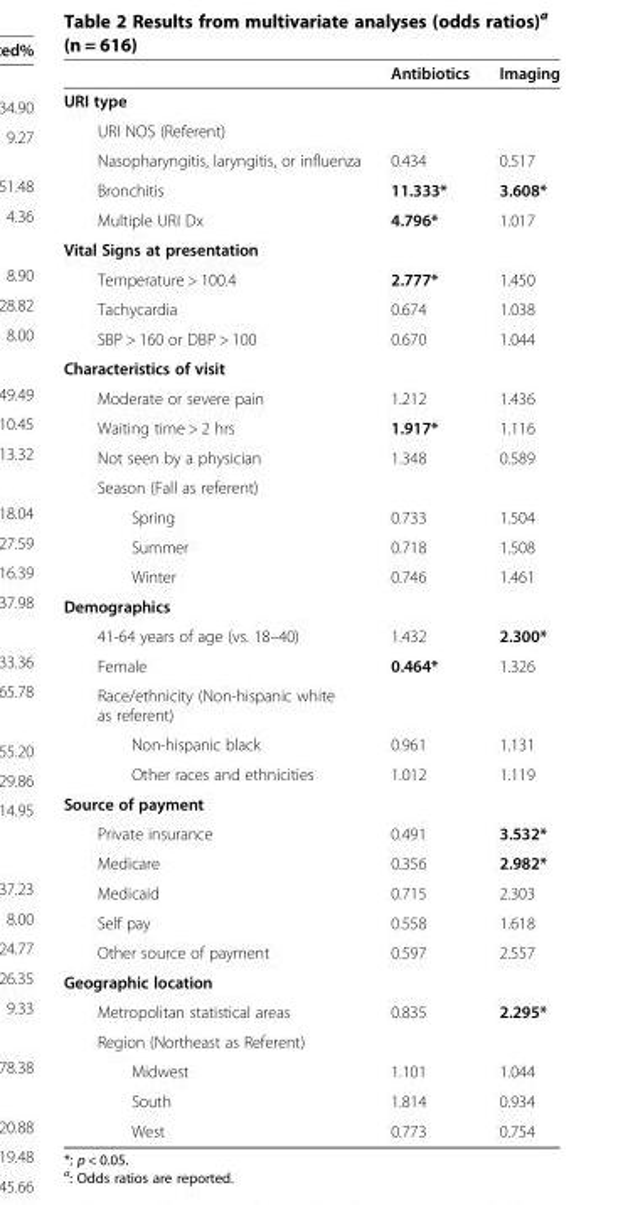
<table><thead><tr><td></td><td>Antibiotics</td><td>Imaging</td></tr></thead><tbody><tr><td colspan="3">URI type</td></tr><tr><td colspan="3">URI NOS (Referent)</td></tr><tr><td>Nasopharyngitis, laryngitis, or influenza</td><td>0.434</td><td>0.517</td></tr><tr><td>Bronchitis</td><td>11.333*</td><td>3.608*</td></tr><tr><td>Multiple URI Dx</td><td>4.796*</td><td>1.017</td></tr><tr><td colspan="3">Vital Signs at presentation</td></tr><tr><td>Temperature &gt; 100.4</td><td>2.777*</td><td>1.450</td></tr><tr><td>Tachycardia</td><td>0.674</td><td>1.038</td></tr><tr><td>SBP &gt; 160 or DBP &gt; 100</td><td>0.670</td><td>1.044</td></tr><tr><td colspan="3">Characteristics of visit</td></tr><tr><td>Moderate or severe pain</td><td>1.212</td><td>1.436</td></tr><tr><td>Waiting time &gt; 2 hrs</td><td>1.917*</td><td>1.116</td></tr><tr><td>Not seen by a physician</td><td>1.348</td><td>0.589</td></tr><tr><td colspan="3">Season (Fall as referent)</td></tr><tr><td>Spring</td><td>0.733</td><td>1.504</td></tr><tr><td>Summer</td><td>0.718</td><td>1.508</td></tr><tr><td>Winter</td><td>0.746</td><td>1.461</td></tr><tr><td colspan="3">Demographics</td></tr><tr><td>41-64 years of age (vs. 18–40)</td><td>1.432</td><td>2.300*</td></tr><tr><td>Female</td><td>0.464*</td><td>1.326</td></tr><tr><td colspan="3">Race/ethnicity (Non-hispanic white as referent)</td></tr><tr><td>Non-hispanic black</td><td>0.961</td><td>1.131</td></tr><tr><td>Other races and ethnicities</td><td>1.012</td><td>1.119</td></tr><tr><td colspan="3">Source of payment</td></tr><tr><td>Private insurance</td><td>0.491</td><td>3.532*</td></tr><tr><td>Medicare</td><td>0.356</td><td>2.982*</td></tr><tr><td>Medicaid</td><td>0.715</td><td>2.303</td></tr><tr><td>Self pay</td><td>0.558</td><td>1.618</td></tr><tr><td>Other source of payment</td><td>0.597</td><td>2.557</td></tr><tr><td colspan="3">Geographic location</td></tr><tr><td>Metropolitan statistical areas</td><td>0.835</td><td>2.295*</td></tr><tr><td colspan="3">Region (Northeast as Referent)</td></tr><tr><td>Midwest</td><td>1.101</td><td>1.044</td></tr><tr><td>South</td><td>1.814</td><td>0.934</td></tr><tr><td>West</td><td>0.773</td><td>0.754</td></tr></tbody></table>